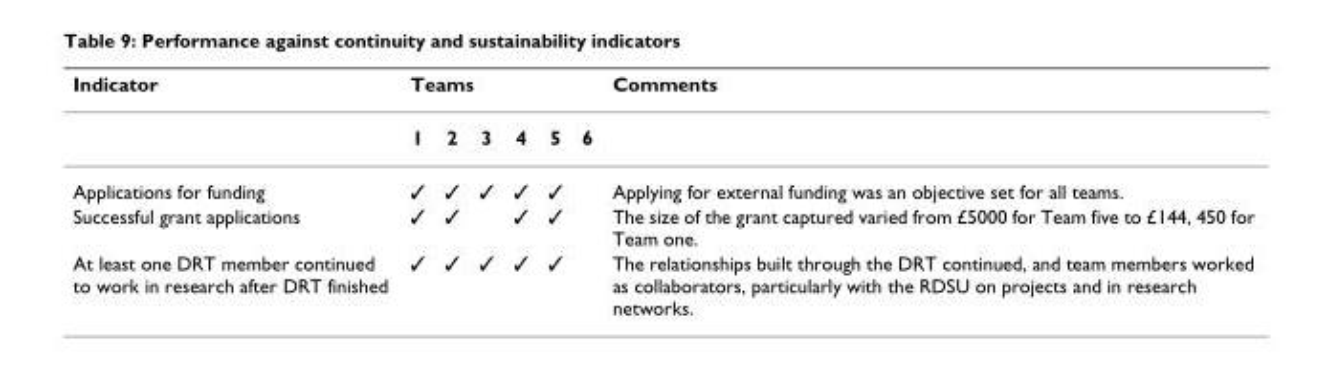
<table><thead><tr><td rowspan="2">Indicator</td><td colspan="6">Teams</td><td rowspan="2">Comments</td></tr><tr><td>1</td><td>2</td><td>3</td><td>4</td><td>5</td><td>6</td></tr></thead><tbody><tr><td>Applications for funding</td><td>✓</td><td>✓</td><td>✓</td><td>✓</td><td>✓</td><td></td><td>Applying for external funding was an objective set for all teams.</td></tr><tr><td>Successful grant applications</td><td>✓</td><td>✓</td><td></td><td>✓</td><td>✓</td><td></td><td>The size of the grant captured varied from £5000 for Team five to £144, 450 for Team one.</td></tr><tr><td>At least one DRT member continued to work in research after DRT finished</td><td>✓</td><td>✓</td><td>✓</td><td>✓</td><td>✓</td><td></td><td>The relationships built through the DRT continued, and team members worked as collaborators, particularly with the RDSU on projects and in research networks.</td></tr></tbody></table>